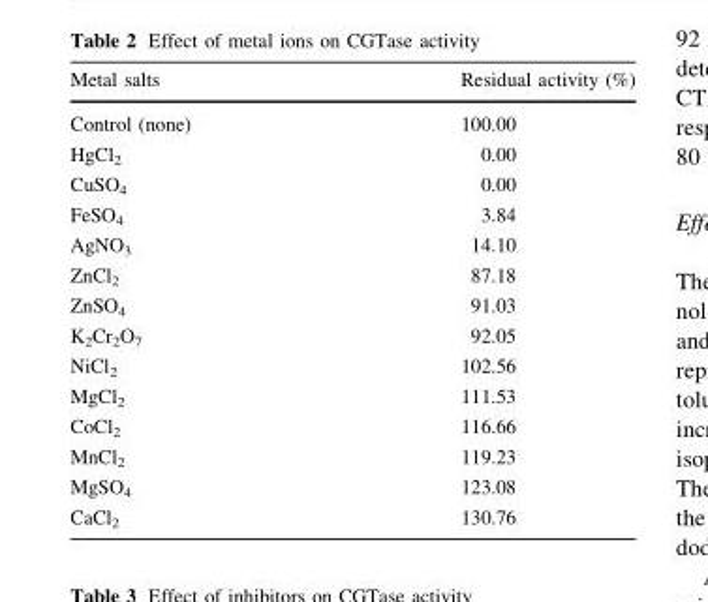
<table><thead><tr><td>Metal salts</td><td>Residual activity (%)</td></tr></thead><tbody><tr><td>Control (none)</td><td>100.00</td></tr><tr><td>HgCl<sub>2</sub></td><td>0.00</td></tr><tr><td>CuSO<sub>4</sub></td><td>0.00</td></tr><tr><td>FeSO<sub>4</sub></td><td>3.84</td></tr><tr><td>AgNO<sub>3</sub></td><td>14.10</td></tr><tr><td>ZnCl<sub>2</sub></td><td>87.18</td></tr><tr><td>ZnSO<sub>4</sub></td><td>91.03</td></tr><tr><td>K<sub>2</sub>Cr<sub>2</sub>O<sub>7</sub></td><td>92.05</td></tr><tr><td>NiCl<sub>2</sub></td><td>102.56</td></tr><tr><td>MgCl<sub>2</sub></td><td>111.53</td></tr><tr><td>CoCl<sub>2</sub></td><td>116.66</td></tr><tr><td>MnCl<sub>2</sub></td><td>119.23</td></tr><tr><td>MgSO<sub>4</sub></td><td>123.08</td></tr><tr><td>CaCl<sub>2</sub></td><td>130.76</td></tr></tbody></table>